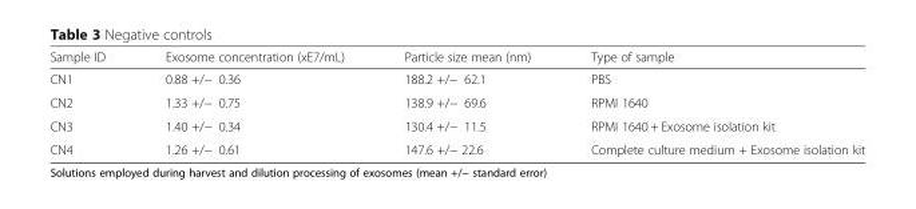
<table><thead><tr><td>Sample ID</td><td>Exosome concentration (xE7/mL)</td><td>Particle size mean (nm)</td><td>Type of sample</td></tr></thead><tbody><tr><td>CN1</td><td>0.88 +/− 0.36</td><td>188.2 +/− 62.1</td><td>PBS</td></tr><tr><td>CN2</td><td>1.33 +/− 0.75</td><td>138.9 +/− 69.6</td><td>RPMI 1640</td></tr><tr><td>CN3</td><td>1.40 +/− 0.34</td><td>130.4 +/− 11.5</td><td>RPMI 1640 + Exosome isolation kit</td></tr><tr><td>CN4</td><td>1.26 +/− 0.61</td><td>147.6 +/− 22.6</td><td>Complete culture medium + Exosome isolation kit</td></tr></tbody></table>